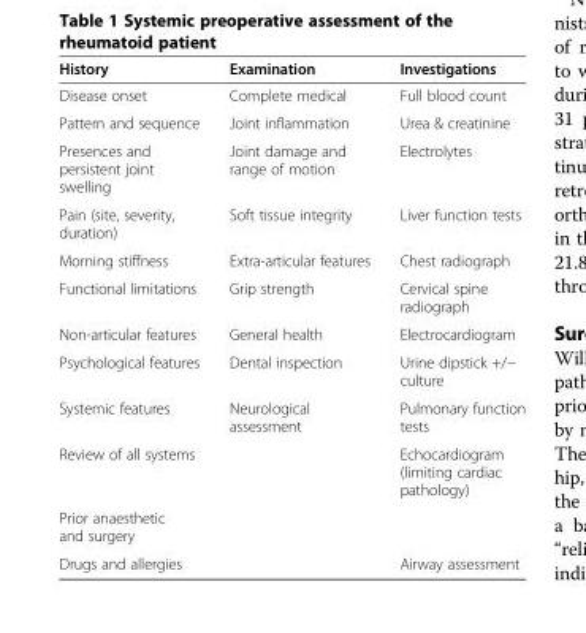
<table><thead><tr><td>History</td><td>Examination</td><td>Investigations</td></tr></thead><tbody><tr><td>Disease onset</td><td>Complete medical</td><td>Full blood count</td></tr><tr><td>Pattern and sequence</td><td>Joint inflammation</td><td>Urea &amp; creatinine</td></tr><tr><td>Presences and persistent joint swelling</td><td>Joint damage and range of motion</td><td>Electrolytes</td></tr><tr><td>Pain (site, severity, duration)</td><td>Soft tissue integrity</td><td>Liver function tests</td></tr><tr><td>Morning stiffness</td><td>Extra-articular features</td><td>Chest radiograph</td></tr><tr><td>Functional limitations</td><td>Grip strength</td><td>Cervical spine radiograph</td></tr><tr><td>Non-articular features</td><td>General health</td><td>Electrocardiogram</td></tr><tr><td>Psychological features</td><td>Dental inspection</td><td>Urine dipstick +/− culture</td></tr><tr><td>Systemic features</td><td>Neurological assessment</td><td>Pulmonary function tests</td></tr><tr><td>Review of all systems</td><td></td><td>Echocardiogram (limiting cardiac pathology)</td></tr><tr><td colspan="3">Prior anaesthetic and surgery</td></tr><tr><td>Drugs and allergies</td><td></td><td>Airway assessment</td></tr></tbody></table>